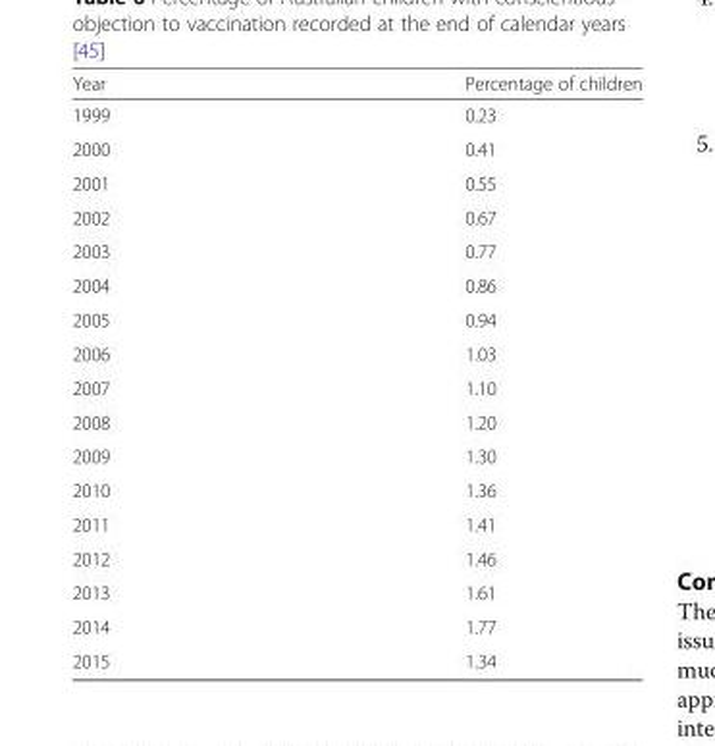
<table><thead><tr><td>Year</td><td>Percentage of children</td></tr></thead><tbody><tr><td>1999</td><td>0.23</td></tr><tr><td>2000</td><td>0.41</td></tr><tr><td>2001</td><td>0.55</td></tr><tr><td>2002</td><td>0.67</td></tr><tr><td>2003</td><td>0.77</td></tr><tr><td>2004</td><td>0.86</td></tr><tr><td>2005</td><td>0.94</td></tr><tr><td>2006</td><td>1.03</td></tr><tr><td>2007</td><td>1.10</td></tr><tr><td>2008</td><td>1.20</td></tr><tr><td>2009</td><td>1.30</td></tr><tr><td>2010</td><td>1.36</td></tr><tr><td>2011</td><td>1.41</td></tr><tr><td>2012</td><td>1.46</td></tr><tr><td>2013</td><td>1.61</td></tr><tr><td>2014</td><td>1.77</td></tr><tr><td>2015</td><td>1.34</td></tr></tbody></table>